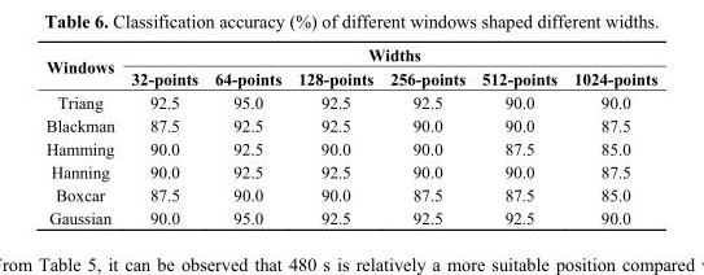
<table><thead><tr><td rowspan="2">Windows</td><td colspan="6">Widths</td></tr><tr><td>32-points</td><td>64-points</td><td>128-points</td><td>256-points</td><td>512-points</td><td>1024-points</td></tr></thead><tbody><tr><td>Triang</td><td>92.5</td><td>95.0</td><td>92.5</td><td>92.5</td><td>90.0</td><td>90.0</td></tr><tr><td>Blackman</td><td>87.5</td><td>92.5</td><td>92.5</td><td>90.0</td><td>90.0</td><td>87.5</td></tr><tr><td>Hamming</td><td>90.0</td><td>92.5</td><td>90.0</td><td>90.0</td><td>87.5</td><td>85.0</td></tr><tr><td>Hanning</td><td>90.0</td><td>92.5</td><td>92.5</td><td>90.0</td><td>90.0</td><td>87.5</td></tr><tr><td>Boxcar</td><td>87.5</td><td>90.0</td><td>90.0</td><td>87.5</td><td>87.5</td><td>85.0</td></tr><tr><td>Gaussian</td><td>90.0</td><td>95.0</td><td>92.5</td><td>92.5</td><td>92.5</td><td>90.0</td></tr></tbody></table>